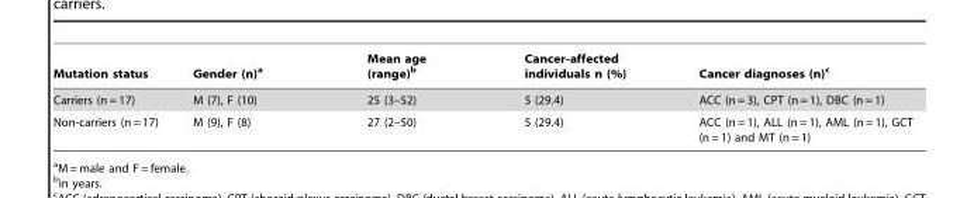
<table><thead><tr><td>Mutation status</td><td>Gender (n)<sup>a</sup></td><td>Mean age (range)<sup>b</sup></td><td>Cancer-affected individuals n (%)</td><td>Cancer diagnoses (n)<sup>c</sup></td></tr></thead><tbody><tr><td>Carriers (n = 17)</td><td>M (7), F (10)</td><td>25 (3–52)</td><td>5 (29.4)</td><td>ACC (n = 3), CPT (n = 1), DBC (n = 1)</td></tr><tr><td>Non-carriers (n = 17)</td><td>M (9), F (8)</td><td>27 (2–50)</td><td>5 (29.4)</td><td>ACC (n = 1), ALL (n = 1), AML (n = 1), GCT (n = 1) and MT (n = 1)</td></tr></tbody></table>